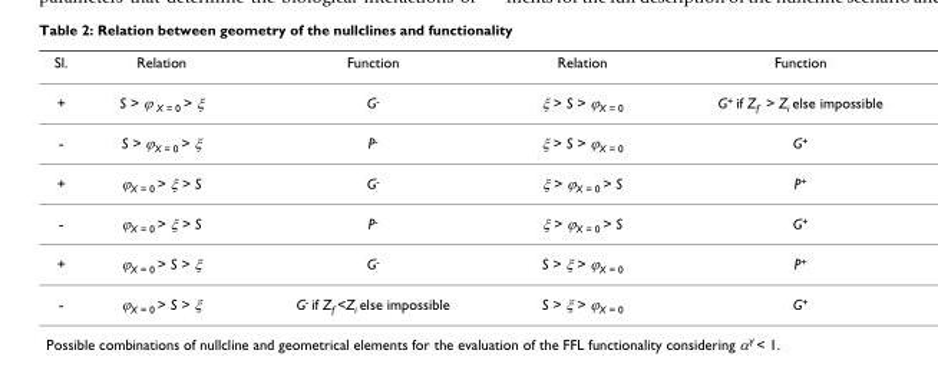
<table><thead><tr><td>Sl.</td><td>Relation</td><td>Function</td><td>Relation</td><td>Function</td></tr></thead><tbody><tr><td>+</td><td>S &gt; ϕ <sub>X = 0</sub> &gt; ξ</td><td>G<sup>-</sup></td><td>ξ &gt; S &gt; ϕX = 0</td><td>G<sup>+</sup> if Z<sub>f</sub> &gt; Z<sub>i</sub> else impossible</td></tr><tr><td>-</td><td>S &gt; ϕ<sub>X = 0</sub> &gt; ξ</td><td>P<sup>-</sup></td><td>ξ &gt; S &gt; ϕX = 0</td><td>G<sup>+</sup></td></tr><tr><td>+</td><td>ϕ<sub>X = 0</sub> &gt; ξ &gt; S</td><td>G<sup>-</sup></td><td>ξ &gt; ϕ<sub>X = 0</sub> &gt; S</td><td>P<sup>+</sup></td></tr><tr><td>-</td><td>ϕ<sub>X = 0</sub> &gt; ξ &gt; S</td><td>P<sup>-</sup></td><td>ξ &gt; ϕ<sub>X = 0</sub> &gt; S</td><td>G<sup>+</sup></td></tr><tr><td>+</td><td>ϕ<sub>X = 0</sub> &gt; S &gt; ξ</td><td>G<sup>-</sup></td><td>S &gt; ξ &gt; ϕ<sub>X = 0</sub></td><td>P<sup>+</sup></td></tr><tr><td>-</td><td>ϕ<sub>X = 0</sub> &gt; S &gt; ξ</td><td>G<sup>-</sup> if Z<sub>f</sub> &lt;Z<sub>i</sub> else impossible</td><td>S &gt; ξ &gt; ϕ<sub>X = 0</sub></td><td>G<sup>+</sup></td></tr></tbody></table>